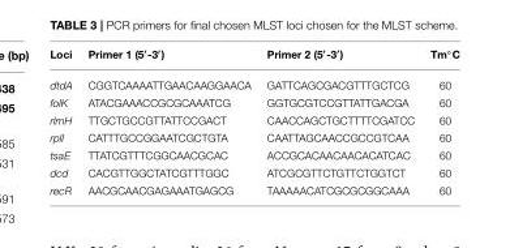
<table><thead><tr><td>Loci</td><td>Primer 1 (5′-3′)</td><td>Primer 2 (5′-3′)</td><td>Tm◦C</td></tr></thead><tbody><tr><td>dtdA</td><td>CGGTCAAAATTGAACAAGGAACA</td><td>GATTCAGCGACGTTTGCTCG</td><td>60</td></tr><tr><td>folK</td><td>ATACGAAACCGCGCAAATCG</td><td>GGTGCGTCCGTTATTGACGA</td><td>60</td></tr><tr><td>rlmH</td><td>TTGCTGCCGTTATTCCGACT</td><td>CAACCAGCTGCTTTTCGATCC</td><td>60</td></tr><tr><td>rplI</td><td>CATTTGCCGGAATCGCTGTA</td><td>CAATTAGCAACCGCCGTCAA</td><td>60</td></tr><tr><td>tsaE</td><td>TTATCGTTTCGGCAACGCAC</td><td>ACCGCACAACAACACATCAC</td><td>60</td></tr><tr><td>dcd</td><td>CACGTTGGCTATCGTTTGGC</td><td>ATCGCGTTCTGTTCTGGTCT</td><td>60</td></tr><tr><td>recR</td><td>AACGCAACGAGAAATGAGCG</td><td>TAAAAACATCGCGCGGCAAA</td><td>60</td></tr></tbody></table>